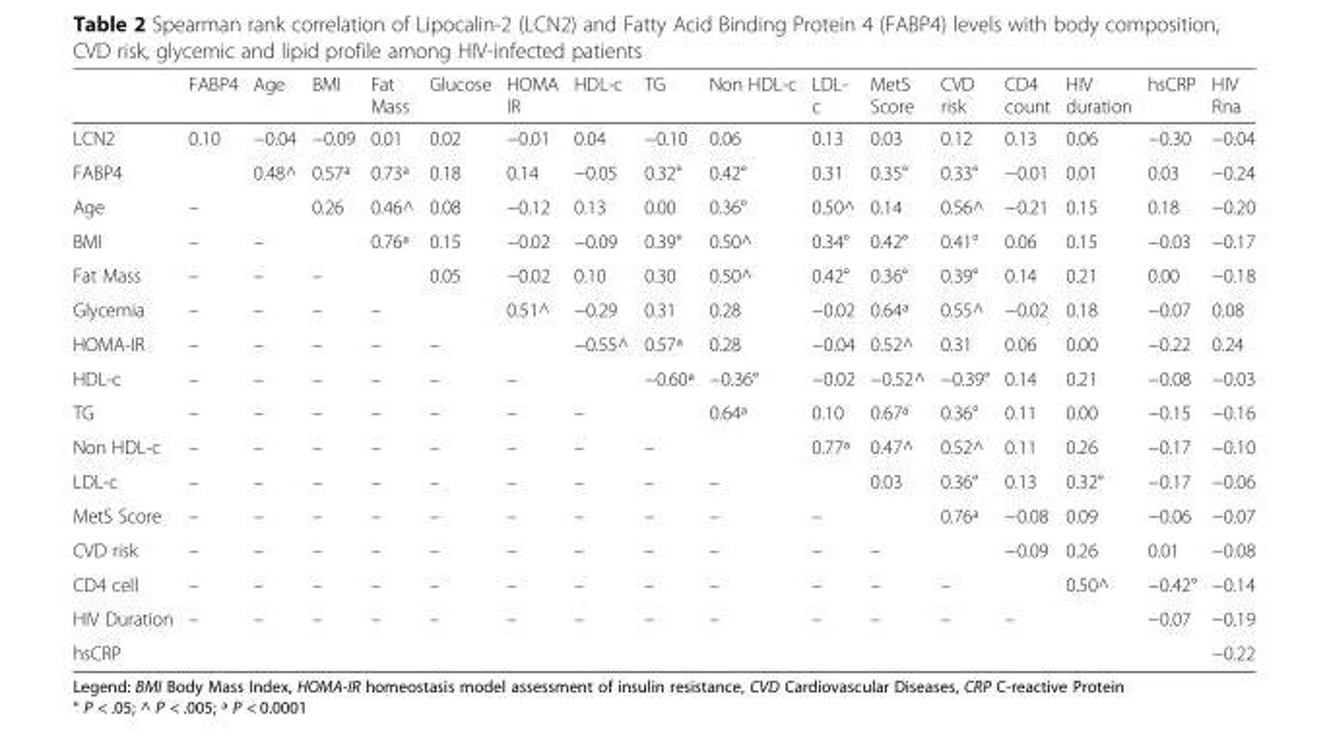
<table><thead><tr><td></td><td>FABP4</td><td>Age</td><td>BMI</td><td>Fat Mass</td><td>Glucose</td><td>HOMA IR</td><td>HDL-c</td><td>TG</td><td>Non HDL-c</td><td>LDL- c</td><td>MetS Score</td><td>CVD risk</td><td>CD4 count</td><td>HIV duration</td><td>hsCRP</td><td>HIV Rna</td></tr></thead><tbody><tr><td>LCN2</td><td>0.10</td><td>−0.04</td><td>−0.09</td><td>0.01</td><td>0.02</td><td>−0.01</td><td>0.04</td><td>−0.10</td><td>0.06</td><td>0.13</td><td>0.03</td><td>0.12</td><td>0.13</td><td>0.06</td><td>−0.30</td><td>−0.04</td></tr><tr><td>FABP4</td><td></td><td>0.48^</td><td>0.57ª</td><td>0.73ª</td><td>0.18</td><td>0.14</td><td>−0.05</td><td>0.32°</td><td>0.42°</td><td>0.31</td><td>0.35°</td><td>0.33°</td><td>−0.01</td><td>0.01</td><td>0.03</td><td>−0.24</td></tr><tr><td>Age</td><td>–</td><td></td><td>0.26</td><td>0.46^</td><td>0.08</td><td>−0.12</td><td>0.13</td><td>0.00</td><td>0.36°</td><td>0.50^</td><td>0.14</td><td>0.56^</td><td>−0.21</td><td>0.15</td><td>0.18</td><td>−0.20</td></tr><tr><td>BMI</td><td>–</td><td>–</td><td></td><td>0.76ª</td><td>0.15</td><td>−0.02</td><td>−0.09</td><td>0.39°</td><td>0.50^</td><td>0.34°</td><td>0.42°</td><td>0.41°</td><td>0.06</td><td>0.15</td><td>−0.03</td><td>−0.17</td></tr><tr><td>Fat Mass</td><td>–</td><td>–</td><td>–</td><td></td><td>0.05</td><td>−0.02</td><td>0.10</td><td>0.30</td><td>0.50^</td><td>0.42°</td><td>0.36°</td><td>0.39°</td><td>0.14</td><td>0.21</td><td>0.00</td><td>−0.18</td></tr><tr><td>Glycemia</td><td>–</td><td>–</td><td>–</td><td>–</td><td></td><td>0.51^</td><td>−0.29</td><td>0.31</td><td>0.28</td><td>−0.02</td><td>0.64ª</td><td>0.55^</td><td>−0.02</td><td>0.18</td><td>−0.07</td><td>0.08</td></tr><tr><td>HOMA-IR</td><td>–</td><td>–</td><td>–</td><td>–</td><td>–</td><td></td><td>−0.55^</td><td>0.57ª</td><td>0.28</td><td>−0.04</td><td>0.52^</td><td>0.31</td><td>0.06</td><td>0.00</td><td>−0.22</td><td>0.24</td></tr><tr><td>HDL-c</td><td>–</td><td>–</td><td>–</td><td>–</td><td>–</td><td>–</td><td></td><td>−0.60ª</td><td>−0.36°</td><td>−0.02</td><td>−0.52^</td><td>−0.39°</td><td>0.14</td><td>0.21</td><td>−0.08</td><td>−0.03</td></tr><tr><td>TG</td><td>–</td><td>–</td><td>–</td><td>–</td><td>–</td><td>–</td><td>–</td><td></td><td>0.64ª</td><td>0.10</td><td>0.67ª</td><td>0.36°</td><td>0.11</td><td>0.00</td><td>−0.15</td><td>−0.16</td></tr><tr><td>Non HDL-c</td><td>–</td><td>–</td><td>–</td><td>–</td><td>–</td><td>–</td><td>–</td><td>–</td><td></td><td>0.77ª</td><td>0.47^</td><td>0.52^</td><td>0.11</td><td>0.26</td><td>−0.17</td><td>−0.10</td></tr><tr><td>LDL-c</td><td>–</td><td>–</td><td>–</td><td>–</td><td>–</td><td>–</td><td>–</td><td>–</td><td>–</td><td></td><td>0.03</td><td>0.36°</td><td>0.13</td><td>0.32°</td><td>−0.17</td><td>−0.06</td></tr><tr><td>MetS Score</td><td>–</td><td>–</td><td>–</td><td>–</td><td>–</td><td>–</td><td>–</td><td>–</td><td>–</td><td>–</td><td></td><td>0.76ª</td><td>−0.08</td><td>0.09</td><td>−0.06</td><td>−0.07</td></tr><tr><td>CVD risk</td><td>–</td><td>–</td><td>–</td><td>–</td><td>–</td><td>–</td><td>–</td><td>–</td><td>–</td><td>–</td><td>–</td><td></td><td>−0.09</td><td>0.26</td><td>0.01</td><td>−0.08</td></tr><tr><td>CD4 cell</td><td>–</td><td>–</td><td>–</td><td>–</td><td>–</td><td>–</td><td>–</td><td>–</td><td>–</td><td>–</td><td>–</td><td>–</td><td></td><td>0.50^</td><td>−0.42°</td><td>−0.14</td></tr><tr><td>HIV Duration</td><td>–</td><td>–</td><td>–</td><td>–</td><td>–</td><td>–</td><td>–</td><td>–</td><td>–</td><td>–</td><td>–</td><td>–</td><td>–</td><td></td><td>−0.07</td><td>−0.19</td></tr><tr><td>hsCRP</td><td></td><td></td><td></td><td></td><td></td><td></td><td></td><td></td><td></td><td></td><td></td><td></td><td></td><td></td><td></td><td>−0.22</td></tr></tbody></table>